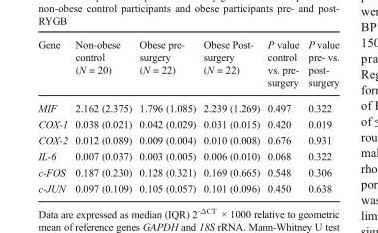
<table><thead><tr><td>Gene</td><td>Non-obese control (N = 20)</td><td>Obese pre- surgery (N = 22)</td><td>Obese Post- surgery (N = 22)</td><td>P value control vs. pre- surgery</td><td>P value pre- vs. post- surgery</td></tr></thead><tbody><tr><td>MIF</td><td>2.162 (2.375)</td><td>1.796 (1.085)</td><td>2.239 (1.269)</td><td>0.497</td><td>0.322</td></tr><tr><td>COX-1</td><td>0.038 (0.021)</td><td>0.042 (0.029)</td><td>0.031 (0.015)</td><td>0.420</td><td>0.019</td></tr><tr><td>COX-2</td><td>0.012 (0.089)</td><td>0.009 (0.004)</td><td>0.010 (0.008)</td><td>0.676</td><td>0.931</td></tr><tr><td>IL-6</td><td>0.007 (0.037)</td><td>0.003 (0.005)</td><td>0.006 (0.010)</td><td>0.068</td><td>0.322</td></tr><tr><td>c-FOS</td><td>0.187 (0.230)</td><td>0.128 (0.321)</td><td>0.169 (0.665)</td><td>0.548</td><td>0.306</td></tr><tr><td>c-JUN</td><td>0.097 (0.109)</td><td>0.105 (0.057)</td><td>0.101 (0.096)</td><td>0.450</td><td>0.638</td></tr></tbody></table>